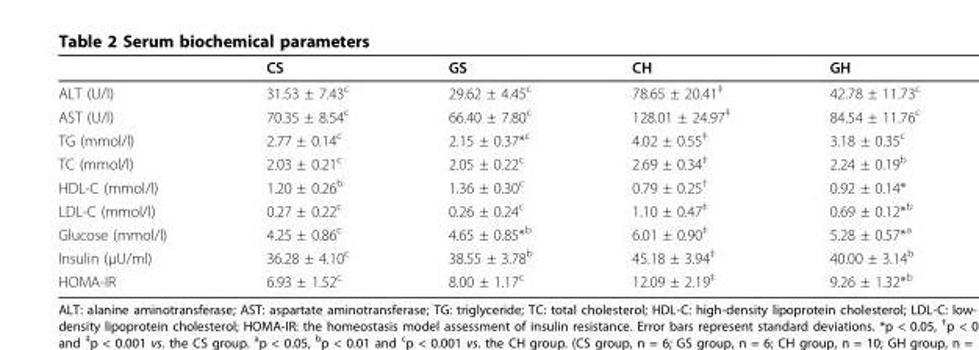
<table><thead><tr><td></td><td>CS</td><td>GS</td><td>CH</td><td>GH</td></tr></thead><tbody><tr><td>ALT (U/l)</td><td>31.53 ± 7.43<sup>c</sup></td><td>29.62 ± 4.45<sup>c</sup></td><td>78.65 ± 20.41<sup>‡</sup></td><td>42.78 ± 11.73<sup>c</sup></td></tr><tr><td>AST (U/l)</td><td>70.35 ± 8.54<sup>c</sup></td><td>66.40 ± 7.80<sup>c</sup></td><td>128.01 ± 24.97<sup>‡</sup></td><td>84.54 ± 11.76<sup>c</sup></td></tr><tr><td>TG (mmol/l)</td><td>2.77 ± 0.14<sup>c</sup></td><td>2.15 ± 0.37*<sup>c</sup></td><td>4.02 ± 0.55<sup>‡</sup></td><td>3.18 ± 0.35<sup>c</sup></td></tr><tr><td>TC (mmol/l)</td><td>2.03 ± 0.21<sup>c</sup></td><td>2.05 ± 0.22<sup>c</sup></td><td>2.69 ± 0.34<sup>‡</sup></td><td>2.24 ± 0.19<sup>b</sup></td></tr><tr><td>HDL-C (mmol/l)</td><td>1.20 ± 0.26<sup>b</sup></td><td>1.36 ± 0.30<sup>c</sup></td><td>0.79 ± 0.25<sup>†</sup></td><td>0.92 ± 0.14*</td></tr><tr><td>LDL-C (mmol/l)</td><td>0.27 ± 0.22<sup>c</sup></td><td>0.26 ± 0.24<sup>c</sup></td><td>1.10 ± 0.47<sup>‡</sup></td><td>0.69 ± 0.12*<sup>b</sup></td></tr><tr><td>Glucose (mmol/l)</td><td>4.25 ± 0.86<sup>c</sup></td><td>4.65 ± 0.85*<sup>b</sup></td><td>6.01 ± 0.90<sup>‡</sup></td><td>5.28 ± 0.57*<sup>a</sup></td></tr><tr><td>Insulin (μU/ml)</td><td>36.28 ± 4.10<sup>c</sup></td><td>38.55 ± 3.78<sup>b</sup></td><td>45.18 ± 3.94<sup>‡</sup></td><td>40.00 ± 3.14<sup>b</sup></td></tr><tr><td>HOMA-IR</td><td>6.93 ± 1.52<sup>c</sup></td><td>8.00 ± 1.17<sup>c</sup></td><td>12.09 ± 2.19<sup>‡</sup></td><td>9.26 ± 1.32*<sup>b</sup></td></tr></tbody></table>